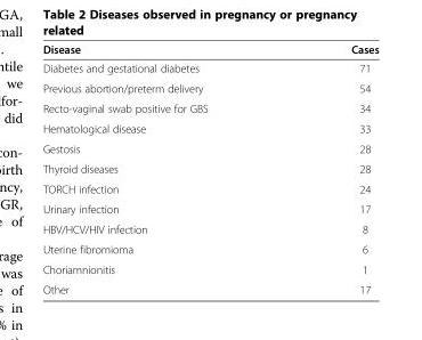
<table><thead><tr><td>Disease</td><td>Cases</td></tr></thead><tbody><tr><td>Diabetes and gestational diabetes</td><td>71</td></tr><tr><td>Previous abortion/preterm delivery</td><td>54</td></tr><tr><td>Recto-vaginal swab positive for GBS</td><td>34</td></tr><tr><td>Hematological disease</td><td>33</td></tr><tr><td>Gestosis</td><td>28</td></tr><tr><td>Thyroid diseases</td><td>28</td></tr><tr><td>TORCH infection</td><td>24</td></tr><tr><td>Urinary infection</td><td>17</td></tr><tr><td>HBV/HCV/HIV infection</td><td>8</td></tr><tr><td>Uterine fibromioma</td><td>6</td></tr><tr><td>Choriamnionitis</td><td>1</td></tr><tr><td>Other</td><td>17</td></tr></tbody></table>